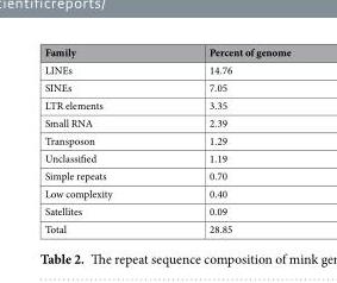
<table><thead><tr><td>Family</td><td>Percent of genome</td></tr></thead><tbody><tr><td>LINEs</td><td>14.76</td></tr><tr><td>SINEs</td><td>7.05</td></tr><tr><td>LTR elements</td><td>3.35</td></tr><tr><td>Small RNA</td><td>2.39</td></tr><tr><td>Transposon</td><td>1.29</td></tr><tr><td>Unclassified</td><td>1.19</td></tr><tr><td>Simple repeats</td><td>0.70</td></tr><tr><td>Low complexity</td><td>0.40</td></tr><tr><td>Satellites</td><td>0.09</td></tr><tr><td>Total</td><td>28.85</td></tr></tbody></table>